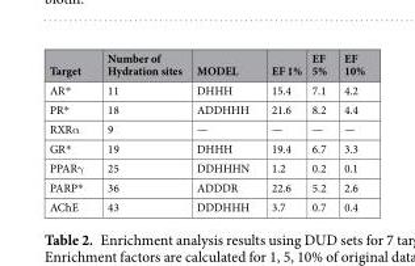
<table><thead><tr><td>Target</td><td>Number of Hydration sites</td><td>MODEL</td><td>EF 1%</td><td>EF 5%</td><td>EF 10%</td></tr></thead><tbody><tr><td>AR*</td><td>11</td><td>DHHH</td><td>15.4</td><td>7.1</td><td>4.2</td></tr><tr><td>PR*</td><td>18</td><td>ADDHHH</td><td>21.6</td><td>8.2</td><td>4.4</td></tr><tr><td>RXRα</td><td>9</td><td>—</td><td>—</td><td>—</td><td>—</td></tr><tr><td>GR*</td><td>19</td><td>DHHH</td><td>19.4</td><td>6.7</td><td>3.3</td></tr><tr><td>PPARγ</td><td>25</td><td>DDHHHN</td><td>1.2</td><td>0.2</td><td>0.1</td></tr><tr><td>PARP*</td><td>36</td><td>ADDDR</td><td>22.6</td><td>5.2</td><td>2.6</td></tr><tr><td>AChE</td><td>43</td><td>DDDHHH</td><td>3.7</td><td>0.7</td><td>0.4</td></tr></tbody></table>